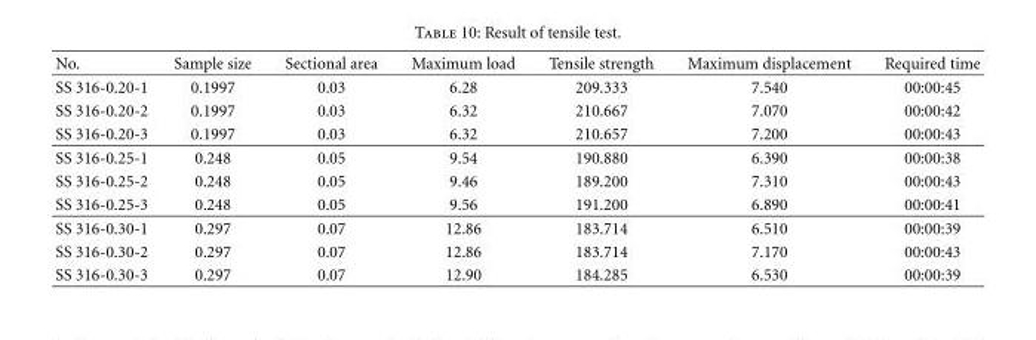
<table><thead><tr><td>No.</td><td>Sample size</td><td>Sectional area</td><td>Maximum load</td><td>Tensile strength</td><td>Maximum displacement</td><td>Required time</td></tr></thead><tbody><tr><td>SS 316-0.20-1</td><td>0.1997</td><td>0.03</td><td>6.28</td><td>209.333</td><td>7.540</td><td>00:00:45</td></tr><tr><td>SS 316-0.20-2</td><td>0.1997</td><td>0.03</td><td>6.32</td><td>210.667</td><td>7.070</td><td>00:00:42</td></tr><tr><td>SS 316-0.20-3</td><td>0.1997</td><td>0.03</td><td>6.32</td><td>210.657</td><td>7.200</td><td>00:00:43</td></tr><tr><td>SS 316-0.25-1</td><td>0.248</td><td>0.05</td><td>9.54</td><td>190.880</td><td>6.390</td><td>00:00:38</td></tr><tr><td>SS 316-0.25-2</td><td>0.248</td><td>0.05</td><td>9.46</td><td>189.200</td><td>7.310</td><td>00:00:43</td></tr><tr><td>SS 316-0.25-3</td><td>0.248</td><td>0.05</td><td>9.56</td><td>191.200</td><td>6.890</td><td>00:00:41</td></tr><tr><td>SS 316-0.30-1</td><td>0.297</td><td>0.07</td><td>12.86</td><td>183.714</td><td>6.510</td><td>00:00:39</td></tr><tr><td>SS 316-0.30-2</td><td>0.297</td><td>0.07</td><td>12.86</td><td>183.714</td><td>7.170</td><td>00:00:43</td></tr><tr><td>SS 316-0.30-3</td><td>0.297</td><td>0.07</td><td>12.90</td><td>184.285</td><td>6.530</td><td>00:00:39</td></tr></tbody></table>